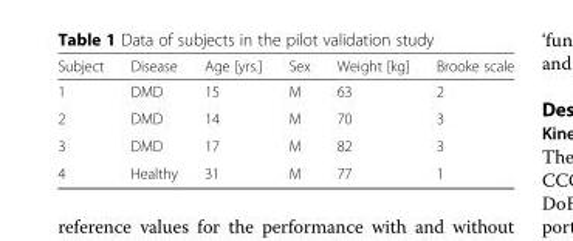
<table><thead><tr><td>Subject</td><td>Disease</td><td>Age [yrs.]</td><td>Sex</td><td>Weight [kg]</td><td>Brooke scale</td></tr></thead><tbody><tr><td>1</td><td>DMD</td><td>15</td><td>M</td><td>63</td><td>2</td></tr><tr><td>2</td><td>DMD</td><td>14</td><td>M</td><td>70</td><td>3</td></tr><tr><td>3</td><td>DMD</td><td>17</td><td>M</td><td>82</td><td>3</td></tr><tr><td>4</td><td>Healthy</td><td>31</td><td>M</td><td>77</td><td>1</td></tr></tbody></table>